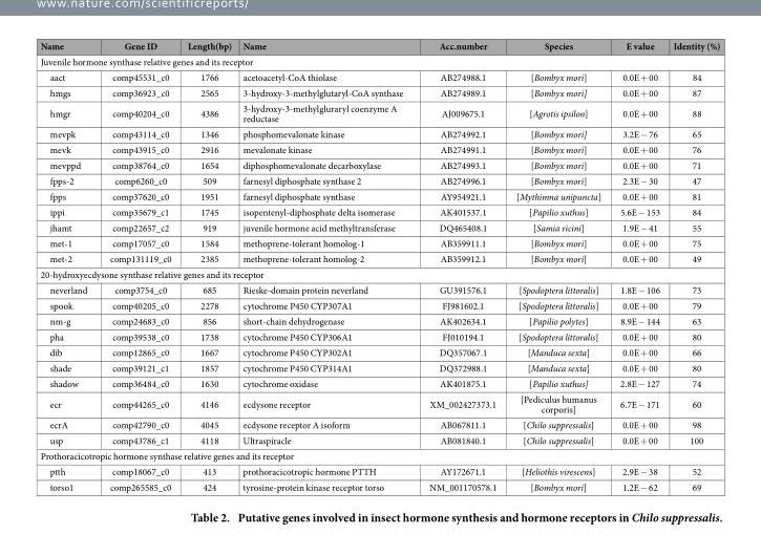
<table><thead><tr><td>Name</td><td>Gene ID</td><td>Length(bp)</td><td>Name</td><td>Acc.number</td><td>Species</td><td>E value</td><td>Identity (%)</td></tr></thead><tbody><tr><td colspan="8">Juvenile hormone synthase relative genes and its receptor</td></tr><tr><td>aact</td><td>comp45531_c0</td><td>1766</td><td>acetoacetyl-CoA thiolase</td><td>AB274988.1</td><td>[Bombyx mori]</td><td>0.0E + 00</td><td>84</td></tr><tr><td>hmgs</td><td>comp36923_c0</td><td>2565</td><td>3-hydroxy-3-methylglutaryl-CoA synthase</td><td>AB274989.1</td><td>[Bombyx mori]</td><td>0.0E + 00</td><td>87</td></tr><tr><td>hmgr</td><td>comp40204_c0</td><td>4386</td><td>3-hydroxy-3-methylgluraryl coenzyme A reductase</td><td>AJ009675.1</td><td>[Agrotis ipsilon]</td><td>0.0E + 00</td><td>88</td></tr><tr><td>mevpk</td><td>comp43114_c0</td><td>1346</td><td>phosphomevalonate kinase</td><td>AB274992.1</td><td>[Bombyx mori]</td><td>3.2E − 76</td><td>65</td></tr><tr><td>mevk</td><td>comp43915_c0</td><td>2916</td><td>mevalonate kinase</td><td>AB274991.1</td><td>[Bombyx mori]</td><td>0.0E + 00</td><td>76</td></tr><tr><td>mevppd</td><td>comp38764_c0</td><td>1654</td><td>diphosphomevalonate decarboxylase</td><td>AB274993.1</td><td>[Bombyx mori]</td><td>0.0E + 00</td><td>71</td></tr><tr><td>fpps-2</td><td>comp6260_c0</td><td>509</td><td>farnesyl diphosphate synthase 2</td><td>AB274996.1</td><td>[Bombyx mori]</td><td>2.3E − 30</td><td>47</td></tr><tr><td>fpps</td><td>comp37620_c0</td><td>1951</td><td>farnesyl diphosphate synthase</td><td>AY954921.1</td><td>[Mythimna unipuncta]</td><td>0.0E + 00</td><td>81</td></tr><tr><td>ippi</td><td>comp35679_c1</td><td>1745</td><td>isopentenyl-diphosphate delta isomerase</td><td>AK401537.1</td><td>[Papilio xuthus]</td><td>5.6E − 153</td><td>84</td></tr><tr><td>jhamt</td><td>comp22657_c2</td><td>919</td><td>juvenile hormone acid methyltransferase</td><td>DQ465408.1</td><td>[Samia ricini]</td><td>1.9E − 41</td><td>55</td></tr><tr><td>met-1</td><td>comp17057_c0</td><td>1584</td><td>methoprene-tolerant homolog-1</td><td>AB359911.1</td><td>[Bombyx mori]</td><td>0.0E + 00</td><td>75</td></tr><tr><td>met-2</td><td>comp131119_c0</td><td>2385</td><td>methoprene-tolerant homolog-2</td><td>AB359912.1</td><td>[Bombyx mori]</td><td>0.0E + 00</td><td>49</td></tr><tr><td colspan="8">20-hydroxyecdysone synthase relative genes and its receptor</td></tr><tr><td>neverland</td><td>comp3754_c0</td><td>685</td><td>Rieske-domain protein neverland</td><td>GU391576.1</td><td>[Spodoptera littoralis]</td><td>1.8E − 106</td><td>73</td></tr><tr><td>spook</td><td>comp40205_c0</td><td>2278</td><td>cytochrome P450 CYP307A1</td><td>FJ981602.1</td><td>[Spodoptera littoralis]</td><td>0.0E + 00</td><td>79</td></tr><tr><td>nm-g</td><td>comp24683_c0</td><td>856</td><td>short-chain dehydrogenase</td><td>AK402634.1</td><td>[Papilio polytes]</td><td>8.9E − 144</td><td>63</td></tr><tr><td>pha</td><td>comp39538_c0</td><td>1738</td><td>cytochrome P450 CYP306A1</td><td>FJ010194.1</td><td>[Spodoptera littoralis]</td><td>0.0E + 00</td><td>80</td></tr><tr><td>dib</td><td>comp12865_c0</td><td>1667</td><td>cytochrome P450 CYP302A1</td><td>DQ357067.1</td><td>[Manduca sexta]</td><td>0.0E + 00</td><td>66</td></tr><tr><td>shade</td><td>comp39121_c1</td><td>1857</td><td>cytochrome P450 CYP314A1</td><td>DQ372988.1</td><td>[Manduca sexta]</td><td>0.0E + 00</td><td>80</td></tr><tr><td>shadow</td><td>comp36484_c0</td><td>1630</td><td>cytochrome oxidase</td><td>AK401875.1</td><td>[Papilio xuthus]</td><td>2.8E − 127</td><td>74</td></tr><tr><td>ecr</td><td>comp44265_c0</td><td>4146</td><td>ecdysone receptor</td><td>XM_002427373.1</td><td>[Pediculus humanus corporis]</td><td>6.7E − 171</td><td>60</td></tr><tr><td>ecrA</td><td>comp42790_c0</td><td>4045</td><td>ecdysone receptor A isoform</td><td>AB067811.1</td><td>[Chilo suppressalis]</td><td>0.0E + 00</td><td>98</td></tr><tr><td>usp</td><td>comp43786_c1</td><td>4118</td><td>Ultraspiracle</td><td>AB081840.1</td><td>[Chilo suppressalis]</td><td>0.0E + 00</td><td>100</td></tr><tr><td colspan="8">Prothoracicotropic hormone synthase relative genes and its receptor</td></tr><tr><td>ptth</td><td>comp18067_c0</td><td>413</td><td>prothoracicotropic hormone PTTH</td><td>AY172671.1</td><td>[Heliothis virescens]</td><td>2.9E − 38</td><td>52</td></tr><tr><td>torso1</td><td>comp265585_c0</td><td>424</td><td>tyrosine-protein kinase receptor torso</td><td>NM_001170578.1</td><td>[Bombyx mori]</td><td>1.2E − 62</td><td>69</td></tr></tbody></table>